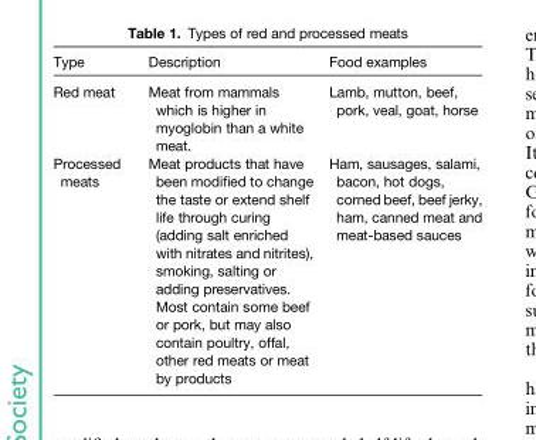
<table><thead><tr><td>Type</td><td>Description</td><td>Food examples</td></tr></thead><tbody><tr><td>Red meat</td><td>Meat from mammals which is higher in myoglobin than a white meat.</td><td>Lamb, mutton, beef, pork, veal, goat, horse</td></tr><tr><td>Processed meats</td><td>Meat products that have been modified to change the taste or extend shelf life through curing (adding salt enriched with nitrates and nitrites), smoking, salting or adding preservatives. Most contain some beef or pork, but may also contain poultry, offal, other red meats or meat by products</td><td>Ham, sausages, salami, bacon, hot dogs, corned beef, beef jerky, ham, canned meat and meat-based sauces</td></tr></tbody></table>